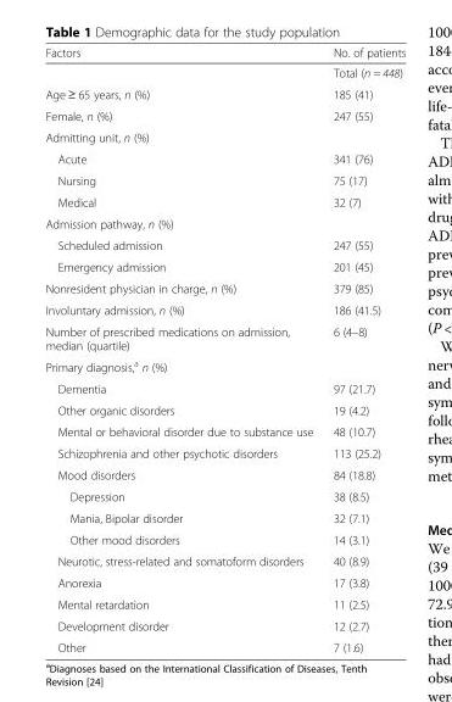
<table><thead><tr><td>Factors</td><td>No. of patients</td></tr></thead><tbody><tr><td></td><td>Total (n = 448)</td></tr><tr><td>Age ≥ 65 years, n (%)</td><td>185 (41)</td></tr><tr><td>Female, n (%)</td><td>247 (55)</td></tr><tr><td colspan="2">Admitting unit, n (%)</td></tr><tr><td>Acute</td><td>341 (76)</td></tr><tr><td>Nursing</td><td>75 (17)</td></tr><tr><td>Medical</td><td>32 (7)</td></tr><tr><td colspan="2">Admission pathway, n (%)</td></tr><tr><td>Scheduled admission</td><td>247 (55)</td></tr><tr><td>Emergency admission</td><td>201 (45)</td></tr><tr><td>Nonresident physician in charge, n (%)</td><td>379 (85)</td></tr><tr><td>Involuntary admission, n (%)</td><td>186 (41.5)</td></tr><tr><td>Number of prescribed medications on admission, median (quartile)</td><td>6 (4–8)</td></tr><tr><td colspan="2">Primary diagnosis,<sup>a</sup> n (%)</td></tr><tr><td>Dementia</td><td>97 (21.7)</td></tr><tr><td>Other organic disorders</td><td>19 (4.2)</td></tr><tr><td>Mental or behavioral disorder due to substance use</td><td>48 (10.7)</td></tr><tr><td>Schizophrenia and other psychotic disorders</td><td>113 (25.2)</td></tr><tr><td>Mood disorders</td><td>84 (18.8)</td></tr><tr><td>Depression</td><td>38 (8.5)</td></tr><tr><td>Mania, Bipolar disorder</td><td>32 (7.1)</td></tr><tr><td>Other mood disorders</td><td>14 (3.1)</td></tr><tr><td>Neurotic, stress-related and somatoform disorders</td><td>40 (8.9)</td></tr><tr><td>Anorexia</td><td>17 (3.8)</td></tr><tr><td>Mental retardation</td><td>11 (2.5)</td></tr><tr><td>Development disorder</td><td>12 (2.7)</td></tr><tr><td>Other</td><td>7 (1.6)</td></tr></tbody></table>